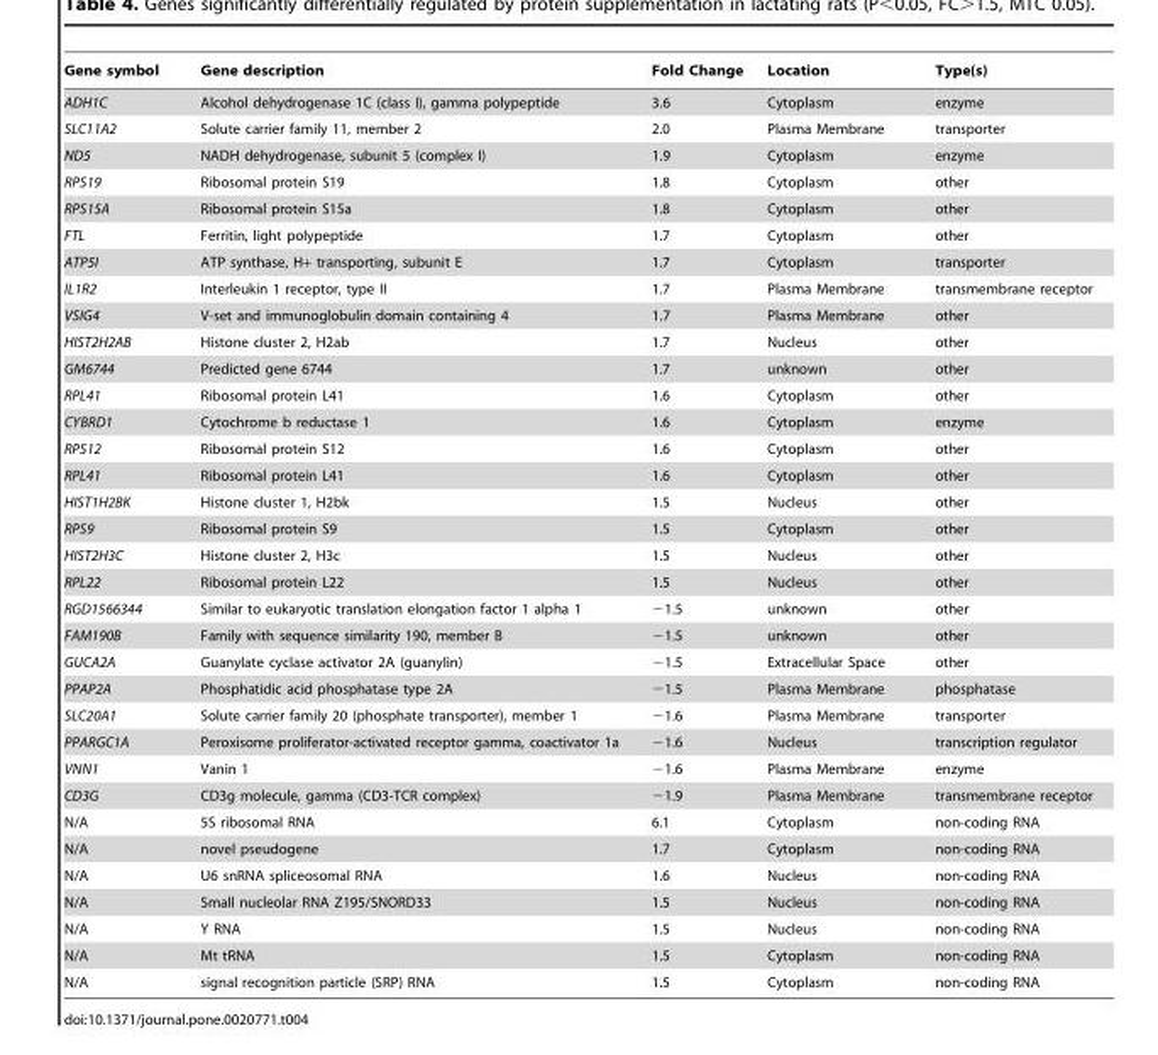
<table><thead><tr><td>Gene symbol</td><td>Gene description</td><td>Fold Change</td><td>Location</td><td>Type(s)</td></tr></thead><tbody><tr><td>ADH1C</td><td>Alcohol dehydrogenase 1C (class I), gamma polypeptide</td><td>3.6</td><td>Cytoplasm</td><td>enzyme</td></tr><tr><td>SLC11A2</td><td>Solute carrier family 11, member 2</td><td>2.0</td><td>Plasma Membrane</td><td>transporter</td></tr><tr><td>ND5</td><td>NADH dehydrogenase, subunit 5 (complex I)</td><td>1.9</td><td>Cytoplasm</td><td>enzyme</td></tr><tr><td>RPS19</td><td>Ribosomal protein S19</td><td>1.8</td><td>Cytoplasm</td><td>other</td></tr><tr><td>RPS15A</td><td>Ribosomal protein S15a</td><td>1.8</td><td>Cytoplasm</td><td>other</td></tr><tr><td>FTL</td><td>Ferritin, light polypeptide</td><td>1.7</td><td>Cytoplasm</td><td>other</td></tr><tr><td>ATP5I</td><td>ATP synthase, H+ transporting, subunit E</td><td>1.7</td><td>Cytoplasm</td><td>transporter</td></tr><tr><td>IL1R2</td><td>Interleukin 1 receptor, type II</td><td>1.7</td><td>Plasma Membrane</td><td>transmembrane receptor</td></tr><tr><td>VSIG4</td><td>V-set and immunoglobulin domain containing 4</td><td>1.7</td><td>Plasma Membrane</td><td>other</td></tr><tr><td>HIST2H2AB</td><td>Histone cluster 2, H2ab</td><td>1.7</td><td>Nucleus</td><td>other</td></tr><tr><td>GM6744</td><td>Predicted gene 6744</td><td>1.7</td><td>unknown</td><td>other</td></tr><tr><td>RPL41</td><td>Ribosomal protein L41</td><td>1.6</td><td>Cytoplasm</td><td>other</td></tr><tr><td>CYBRD1</td><td>Cytochrome b reductase 1</td><td>1.6</td><td>Cytoplasm</td><td>enzyme</td></tr><tr><td>RPS12</td><td>Ribosomal protein S12</td><td>1.6</td><td>Cytoplasm</td><td>other</td></tr><tr><td>RPL41</td><td>Ribosomal protein L41</td><td>1.6</td><td>Cytoplasm</td><td>other</td></tr><tr><td>HIST1H2BK</td><td>Histone cluster 1, H2bk</td><td>1.5</td><td>Nucleus</td><td>other</td></tr><tr><td>RPS9</td><td>Ribosomal protein S9</td><td>1.5</td><td>Cytoplasm</td><td>other</td></tr><tr><td>HIST2H3C</td><td>Histone cluster 2, H3c</td><td>1.5</td><td>Nucleus</td><td>other</td></tr><tr><td>RPL22</td><td>Ribosomal protein L22</td><td>1.5</td><td>Nucleus</td><td>other</td></tr><tr><td>RGD1566344</td><td>Similar to eukaryotic translation elongation factor 1 alpha 1</td><td>−1.5</td><td>unknown</td><td>other</td></tr><tr><td>FAM190B</td><td>Family with sequence similarity 190, member B</td><td>−1.5</td><td>unknown</td><td>other</td></tr><tr><td>GUCA2A</td><td>Guanylate cyclase activator 2A (guanylin)</td><td>−1.5</td><td>Extracellular Space</td><td>other</td></tr><tr><td>PPAP2A</td><td>Phosphatidic acid phosphatase type 2A</td><td>−1.5</td><td>Plasma Membrane</td><td>phosphatase</td></tr><tr><td>SLC20A1</td><td>Solute carrier family 20 (phosphate transporter), member 1</td><td>−1.6</td><td>Plasma Membrane</td><td>transporter</td></tr><tr><td>PPARGC1A</td><td>Peroxisome proliferator-activated receptor gamma, coactivator 1a</td><td>−1.6</td><td>Nucleus</td><td>transcription regulator</td></tr><tr><td>VNN1</td><td>Vanin 1</td><td>−1.6</td><td>Plasma Membrane</td><td>enzyme</td></tr><tr><td>CD3G</td><td>CD3g molecule, gamma (CD3-TCR complex)</td><td>−1.9</td><td>Plasma Membrane</td><td>transmembrane receptor</td></tr><tr><td>N/A</td><td>5S ribosomal RNA</td><td>6.1</td><td>Cytoplasm</td><td>non-coding RNA</td></tr><tr><td>N/A</td><td>novel pseudogene</td><td>1.7</td><td>Cytoplasm</td><td>non-coding RNA</td></tr><tr><td>N/A</td><td>U6 snRNA spliceosomal RNA</td><td>1.6</td><td>Nucleus</td><td>non-coding RNA</td></tr><tr><td>N/A</td><td>Small nucleolar RNA Z195/SNORD33</td><td>1.5</td><td>Nucleus</td><td>non-coding RNA</td></tr><tr><td>N/A</td><td>Y RNA</td><td>1.5</td><td>Nucleus</td><td>non-coding RNA</td></tr><tr><td>N/A</td><td>Mt tRNA</td><td>1.5</td><td>Cytoplasm</td><td>non-coding RNA</td></tr><tr><td>N/A</td><td>signal recognition particle (SRP) RNA</td><td>1.5</td><td>Cytoplasm</td><td>non-coding RNA</td></tr></tbody></table>